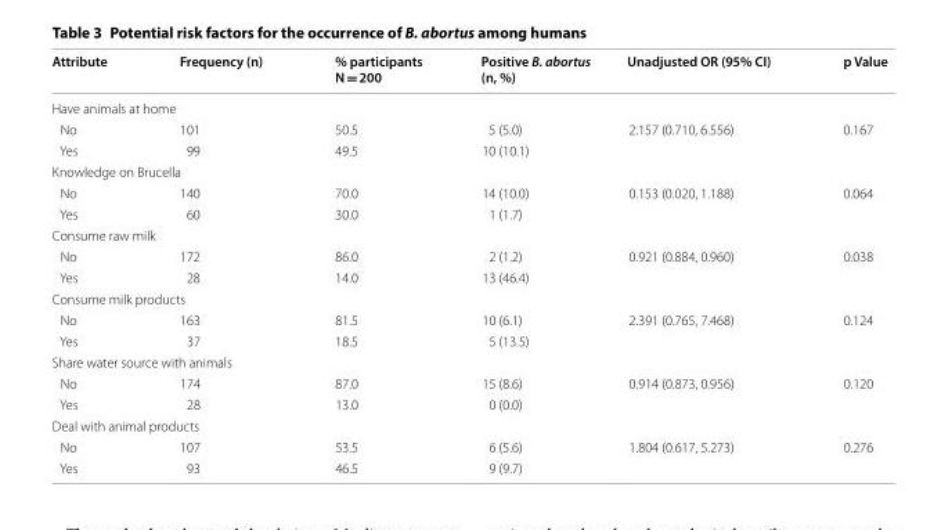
<table><thead><tr><td>Attribute</td><td>Frequency (n)</td><td>% participants N = 200</td><td>Positive B. abortus (n, %)</td><td>Unadjusted OR (95% CI)</td><td>p Value</td></tr></thead><tbody><tr><td colspan="6">Have animals at home</td></tr><tr><td>No</td><td>101</td><td>50.5</td><td>5 (5.0)</td><td rowspan="2">2.157 (0.710, 6.556)</td><td rowspan="2">0.167</td></tr><tr><td>Yes</td><td>99</td><td>49.5</td><td>10 (10.1)</td></tr><tr><td colspan="6">Knowledge on Brucella</td></tr><tr><td>No</td><td>140</td><td>70.0</td><td>14 (10.0)</td><td rowspan="2">0.153 (0.020, 1.188)</td><td rowspan="2">0.064</td></tr><tr><td>Yes</td><td>60</td><td>30.0</td><td>1 (1.7)</td></tr><tr><td colspan="6">Consume raw milk</td></tr><tr><td>No</td><td>172</td><td>86.0</td><td>2 (1.2)</td><td rowspan="2">0.921 (0.884, 0.960)</td><td rowspan="2">0.038</td></tr><tr><td>Yes</td><td>28</td><td>14.0</td><td>13 (46.4)</td></tr><tr><td colspan="6">Consume milk products</td></tr><tr><td>No</td><td>163</td><td>81.5</td><td>10 (6.1)</td><td rowspan="2">2.391 (0.765, 7.468)</td><td rowspan="2">0.124</td></tr><tr><td>Yes</td><td>37</td><td>18.5</td><td>5 (13.5)</td></tr><tr><td colspan="6">Share water source with animals</td></tr><tr><td>No</td><td>174</td><td>87.0</td><td>15 (8.6)</td><td rowspan="2">0.914 (0.873, 0.956)</td><td rowspan="2">0.120</td></tr><tr><td>Yes</td><td>28</td><td>13.0</td><td>0 (0.0)</td></tr><tr><td colspan="6">Deal with animal products</td></tr><tr><td>No</td><td>107</td><td>53.5</td><td>6 (5.6)</td><td rowspan="2">1.804 (0.617, 5.273)</td><td rowspan="2">0.276</td></tr><tr><td>Yes</td><td>93</td><td>46.5</td><td>9 (9.7)</td></tr></tbody></table>